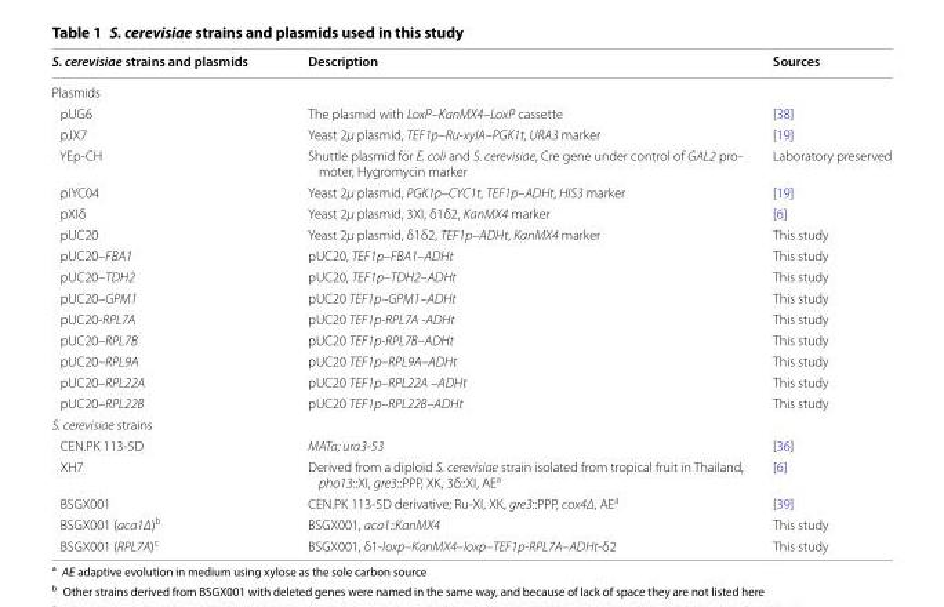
<table><thead><tr><td>S. cerevisiae strains and plasmids</td><td>Description</td><td>Sources</td></tr></thead><tbody><tr><td colspan="3">Plasmids</td></tr><tr><td>pUG6</td><td>The plasmid with LoxP–KanMX4–LoxP cassette</td><td>[38]</td></tr><tr><td>pJX7</td><td>Yeast 2μ plasmid, TEF1p–Ru-xylA–PGK1t, URA3 marker</td><td>[19]</td></tr><tr><td>YEp-CH</td><td>Shuttle plasmid for E. coli and S. cerevisiae, Cre gene under control of GAL2 pro- moter, Hygromycin marker</td><td>Laboratory preserved</td></tr><tr><td>pIYC04</td><td>Yeast 2μ plasmid, PGK1p–CYC1t, TEF1p–ADHt, HIS3 marker</td><td>[19]</td></tr><tr><td>pXIδ</td><td>Yeast 2μ plasmid, 3XI, δ1δ2, KanMX4 marker</td><td>[6]</td></tr><tr><td>pUC20</td><td>Yeast 2μ plasmid, δ1δ2, TEF1p–ADHt, KanMX4 marker</td><td>This study</td></tr><tr><td>pUC20–FBA1</td><td>pUC20, TEF1p–FBA1–ADHt</td><td>This study</td></tr><tr><td>pUC20–TDH2</td><td>pUC20, TEF1p–TDH2–ADHt</td><td>This study</td></tr><tr><td>pUC20–GPM1</td><td>pUC20 TEF1p–GPM1–ADHt</td><td>This study</td></tr><tr><td>pUC20-RPL7A</td><td>pUC20 TEF1p-RPL7A -ADHt</td><td>This study</td></tr><tr><td>pUC20–RPL7B</td><td>pUC20 TEF1p-RPL7B–ADHt</td><td>This study</td></tr><tr><td>pUC20–RPL9A</td><td>pUC20 TEF1p–RPL9A–ADHt</td><td>This study</td></tr><tr><td>pUC20–RPL22A</td><td>pUC20 TEF1p–RPL22A –ADHt</td><td>This study</td></tr><tr><td>pUC20–RPL22B</td><td>pUC20 TEF1p–RPL22B–ADHt</td><td>This study</td></tr><tr><td colspan="3">S. cerevisiae strains</td></tr><tr><td>CEN.PK 113-5D</td><td>MATa; ura3-53</td><td>[36]</td></tr><tr><td>XH7</td><td>Derived from a diploid S. cerevisiae strain isolated from tropical fruit in Thailand, pho13::XI, gre3::PPP, XK, 3δ::XI, AE<sup>a</sup></td><td>[6]</td></tr><tr><td>BSGX001</td><td>CEN.PK 113-5D derivative; Ru-XI, XK, gre3::PPP, cox4Δ, AE<sup>a</sup></td><td>[39]</td></tr><tr><td>BSGX001 (aca1Δ)<sup>b</sup></td><td>BSGX001, aca1::KanMX4</td><td>This study</td></tr><tr><td>BSGX001 (RPL7A)<sup>c</sup></td><td>BSGX001, δ1-loxp–KanMX4–loxp–TEF1p-RPL7A–ADHt-δ2</td><td>This study</td></tr></tbody></table>